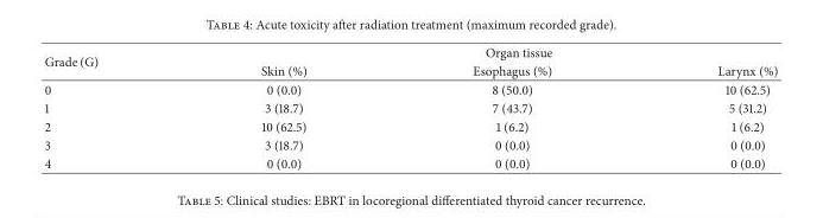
<table><thead><tr><td rowspan="2">Grade (G)</td><td colspan="3">Organ tissue</td></tr><tr><td>Skin (%)</td><td>Esophagus (%)</td><td>Larynx (%)</td></tr></thead><tbody><tr><td>0</td><td>0 (0.0)</td><td>8 (50.0)</td><td>10 (62.5)</td></tr><tr><td>1</td><td>3 (18.7)</td><td>7 (43.7)</td><td>5 (31.2)</td></tr><tr><td>2</td><td>10 (62.5)</td><td>1 (6.2)</td><td>1 (6.2)</td></tr><tr><td>3</td><td>3 (18.7)</td><td>0 (0.0)</td><td>0 (0.0)</td></tr><tr><td>4</td><td>0 (0.0)</td><td>0 (0.0)</td><td>0 (0.0)</td></tr></tbody></table>